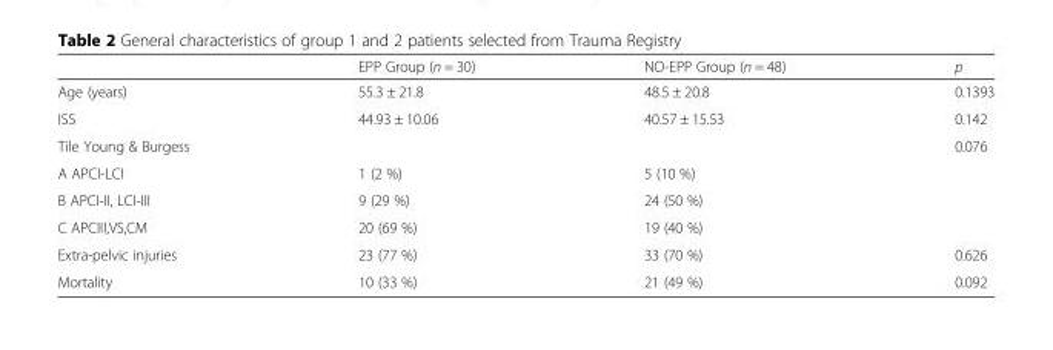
<table><thead><tr><td></td><td>EPP Group (n = 30)</td><td>NO-EPP Group (n = 48)</td><td>p</td></tr></thead><tbody><tr><td>Age (years)</td><td>55.3 ± 21.8</td><td>48.5 ± 20.8</td><td>0.1393</td></tr><tr><td>ISS</td><td>44.93 ± 10.06</td><td>40.57 ± 15.53</td><td>0.142</td></tr><tr><td>Tile Young &amp; Burgess</td><td></td><td></td><td>0.076</td></tr><tr><td>A APCI-LCI</td><td>1 (2 %)</td><td>5 (10 %)</td><td></td></tr><tr><td>B APCI-II, LCI-III</td><td>9 (29 %)</td><td>24 (50 %)</td><td></td></tr><tr><td>C APCIII,VS,CM</td><td>20 (69 %)</td><td>19 (40 %)</td><td></td></tr><tr><td>Extra-pelvic injuries</td><td>23 (77 %)</td><td>33 (70 %)</td><td>0.626</td></tr><tr><td>Mortality</td><td>10 (33 %)</td><td>21 (49 %)</td><td>0.092</td></tr></tbody></table>